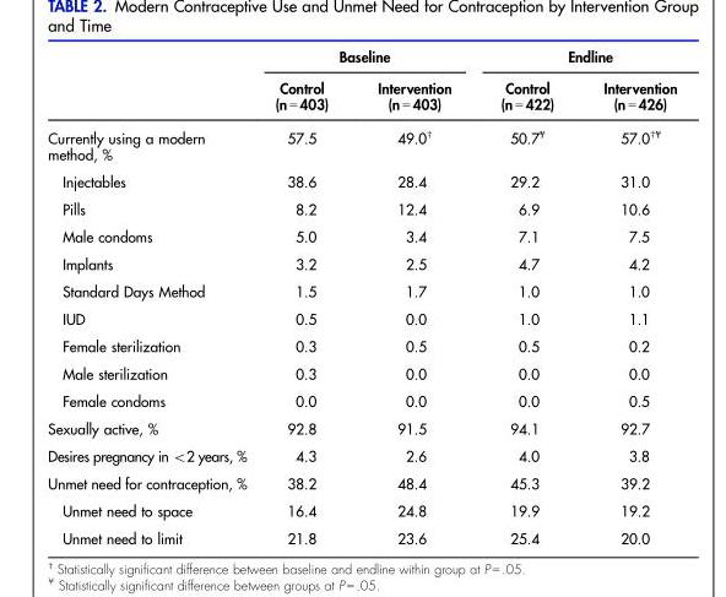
<table><thead><tr><td rowspan="2"></td><td colspan="2">Baseline</td><td colspan="2">Endline</td></tr><tr><td>Control (n = 403)</td><td>Intervention (n = 403)</td><td>Control (n = 422)</td><td>Intervention (n = 426)</td></tr></thead><tbody><tr><td>Currently using a modern method, %</td><td>57.5</td><td>49.0†</td><td>50.7¥</td><td>57.0<sup>†¥</sup></td></tr><tr><td>Injectables</td><td>38.6</td><td>28.4</td><td>29.2</td><td>31.0</td></tr><tr><td>Pills</td><td>8.2</td><td>12.4</td><td>6.9</td><td>10.6</td></tr><tr><td>Male condoms</td><td>5.0</td><td>3.4</td><td>7.1</td><td>7.5</td></tr><tr><td>Implants</td><td>3.2</td><td>2.5</td><td>4.7</td><td>4.2</td></tr><tr><td>Standard Days Method</td><td>1.5</td><td>1.7</td><td>1.0</td><td>1.0</td></tr><tr><td>IUD</td><td>0.5</td><td>0.0</td><td>1.0</td><td>1.1</td></tr><tr><td>Female sterilization</td><td>0.3</td><td>0.5</td><td>0.5</td><td>0.2</td></tr><tr><td>Male sterilization</td><td>0.3</td><td>0.0</td><td>0.0</td><td>0.0</td></tr><tr><td>Female condoms</td><td>0.0</td><td>0.0</td><td>0.0</td><td>0.5</td></tr><tr><td>Sexually active, %</td><td>92.8</td><td>91.5</td><td>94.1</td><td>92.7</td></tr><tr><td>Desires pregnancy in &lt;2 years, %</td><td>4.3</td><td>2.6</td><td>4.0</td><td>3.8</td></tr><tr><td>Unmet need for contraception, %</td><td>38.2</td><td>48.4</td><td>45.3</td><td>39.2</td></tr><tr><td>Unmet need to space</td><td>16.4</td><td>24.8</td><td>19.9</td><td>19.2</td></tr><tr><td>Unmet need to limit</td><td>21.8</td><td>23.6</td><td>25.4</td><td>20.0</td></tr></tbody></table>